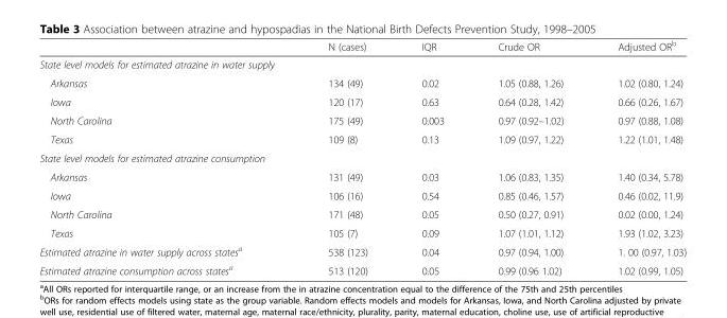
<table><thead><tr><td></td><td>N (cases)</td><td>IQR</td><td>Crude OR</td><td>Adjusted OR<sup>b</sup></td></tr></thead><tbody><tr><td colspan="5">State level models for estimated atrazine in water supply</td></tr><tr><td>Arkansas</td><td>134 (49)</td><td>0.02</td><td>1.05 (0.88, 1.26)</td><td>1.02 (0.80, 1.24)</td></tr><tr><td>Iowa</td><td>120 (17)</td><td>0.63</td><td>0.64 (0.28, 1.42)</td><td>0.66 (0.26, 1.67)</td></tr><tr><td>North Carolina</td><td>175 (49)</td><td>0.003</td><td>0.97 (0.92–1.02)</td><td>0.97 (0.88, 1.08)</td></tr><tr><td>Texas</td><td>109 (8)</td><td>0.13</td><td>1.09 (0.97, 1.22)</td><td>1.22 (1.01, 1.48)</td></tr><tr><td colspan="5">State level models for estimated atrazine consumption</td></tr><tr><td>Arkansas</td><td>131 (49)</td><td>0.03</td><td>1.06 (0.83, 1.35)</td><td>1.40 (0.34, 5.78)</td></tr><tr><td>Iowa</td><td>106 (16)</td><td>0.54</td><td>0.85 (0.46, 1.57)</td><td>0.46 (0.02, 11.9)</td></tr><tr><td>North Carolina</td><td>171 (48)</td><td>0.05</td><td>0.50 (0.27, 0.91)</td><td>0.02 (0.00, 1.24)</td></tr><tr><td>Texas</td><td>105 (7)</td><td>0.09</td><td>1.07 (1.01, 1.12)</td><td>1.93 (1.02, 3.23)</td></tr><tr><td>Estimated atrazine in water supply across states<sup>a</sup></td><td>538 (123)</td><td>0.04</td><td>0.97 (0.94, 1.00)</td><td>1. 00 (0.97, 1.03)</td></tr><tr><td>Estimated atrazine consumption across states<sup>a</sup></td><td>513 (120)</td><td>0.05</td><td>0.99 (0.96 1.02)</td><td>1.02 (0.99, 1.05)</td></tr></tbody></table>